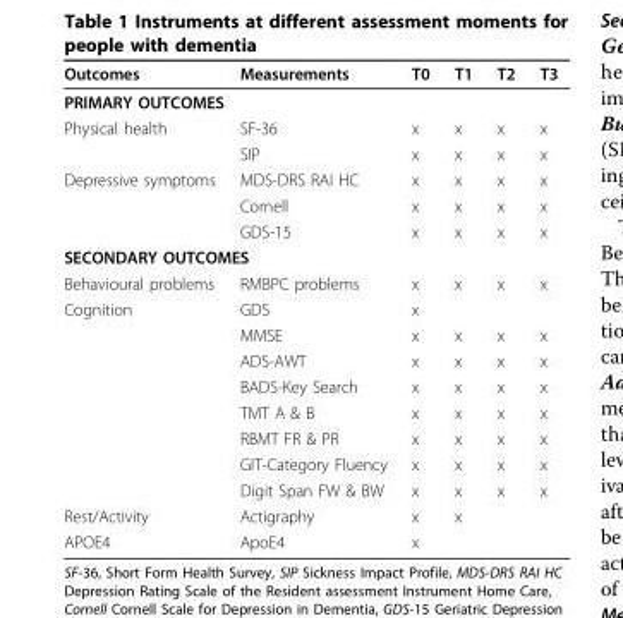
<table><thead><tr><td>Outcomes</td><td>Measurements</td><td>T0</td><td>T1</td><td>T2</td><td>T3</td></tr></thead><tbody><tr><td colspan="6">PRIMARY OUTCOMES</td></tr><tr><td rowspan="2">Physical health</td><td>SF-36</td><td>x</td><td>x</td><td>x</td><td>x</td></tr><tr><td>SIP</td><td>x</td><td>x</td><td>x</td><td>x</td></tr><tr><td rowspan="3">Depressive symptoms</td><td>MDS-DRS RAI HC</td><td>x</td><td>x</td><td>x</td><td>x</td></tr><tr><td>Cornell</td><td>x</td><td>x</td><td>x</td><td>x</td></tr><tr><td>GDS-15</td><td>x</td><td>x</td><td>x</td><td>x</td></tr><tr><td colspan="6">SECONDARY OUTCOMES</td></tr><tr><td>Behavioural problems</td><td>RMBPC problems</td><td>x</td><td>x</td><td>x</td><td>x</td></tr><tr><td rowspan="8">Cognition</td><td>GDS</td><td>x</td><td></td><td></td><td></td></tr><tr><td>MMSE</td><td>x</td><td>x</td><td>x</td><td>x</td></tr><tr><td>ADS-AWT</td><td>x</td><td>x</td><td>x</td><td>x</td></tr><tr><td>BADS-Key Search</td><td>x</td><td>x</td><td>x</td><td>x</td></tr><tr><td>TMT A &amp; B</td><td>x</td><td>x</td><td>x</td><td>x</td></tr><tr><td>RBMT FR &amp; PR</td><td>x</td><td>x</td><td>x</td><td>x</td></tr><tr><td>GIT-Category Fluency</td><td>x</td><td>x</td><td>x</td><td>x</td></tr><tr><td>Digit Span FW &amp; BW</td><td>x</td><td>x</td><td>x</td><td>x</td></tr><tr><td>Rest/Activity</td><td>Actigraphy</td><td>x</td><td>x</td><td></td><td></td></tr><tr><td>APOE4</td><td>ApoE4</td><td>x</td><td></td><td></td><td></td></tr></tbody></table>